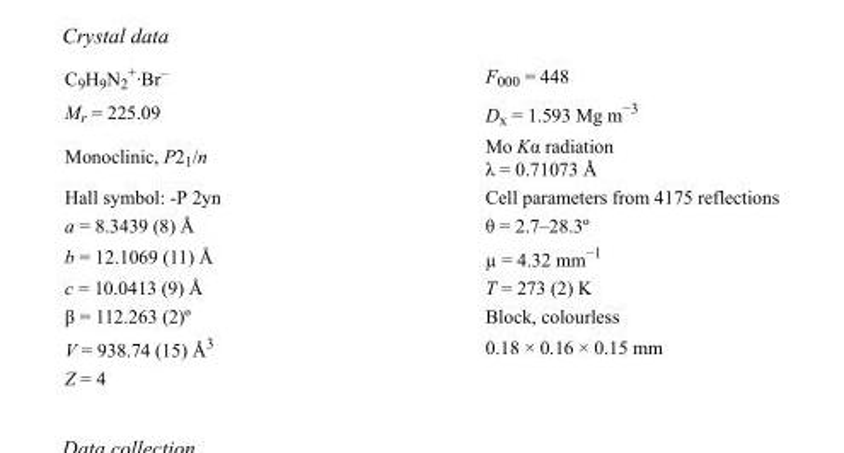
<table><tbody><tr><td>C<sub>9</sub>H<sub>9</sub>N<sub>2</sub> <sup>+</sup>·Br<sup>–</sup></td><td>F<sub>000</sub> = 448</td></tr><tr><td>M<sub>r</sub> = 225.09</td><td>D<sub>x</sub> = 1.593 Mg m<sup>−3</sup></td></tr><tr><td>Monoclinic, P2<sub>1</sub>/n</td><td>Mo Kα radiation λ = 0.71073 Å</td></tr><tr><td>Hall symbol: -P 2yn</td><td>Cell parameters from 4175 reflections</td></tr><tr><td>a = 8.3439 (8) Å</td><td>θ = 2.7–28.3º</td></tr><tr><td>b = 12.1069 (11) Å</td><td>µ = 4.32 mm<sup>−1</sup></td></tr><tr><td>c = 10.0413 (9) Å</td><td>T = 273 (2) K</td></tr><tr><td>β = 112.263 (2)º</td><td>Block, colourless</td></tr><tr><td>V = 938.74 (15) Å<sup>3</sup></td><td>0.18 × 0.16 × 0.15 mm</td></tr><tr><td>Z = 4</td><td></td></tr></tbody></table>